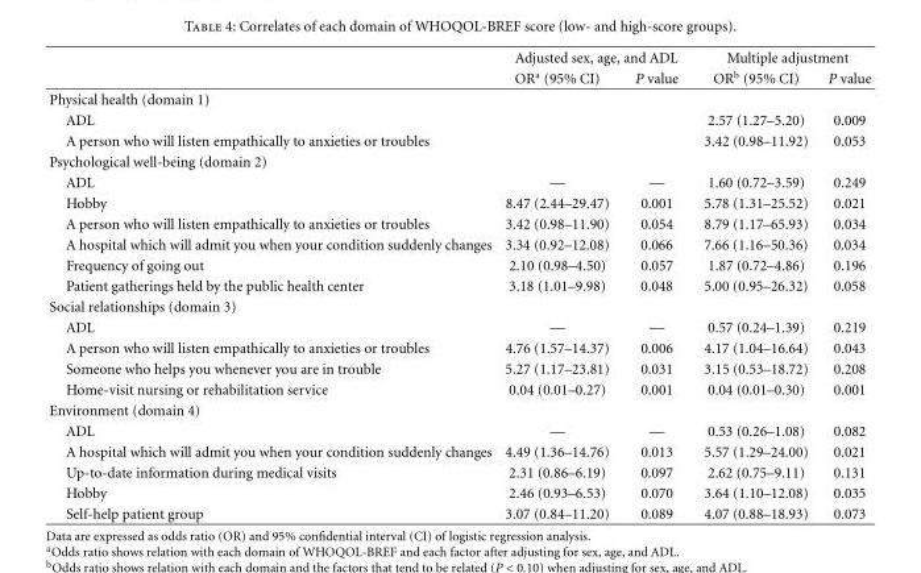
<table><thead><tr><td rowspan="2"></td><td colspan="2">Adjusted sex, age, and ADL</td><td colspan="2">Multiple adjustment</td></tr><tr><td>OR<sup>a</sup> (95% CI)</td><td>P value</td><td>OR<sup>b</sup> (95% CI)</td><td>P value</td></tr></thead><tbody><tr><td colspan="5">Physical health (domain 1)</td></tr><tr><td>ADL</td><td></td><td></td><td>2.57 (1.27–5.20)</td><td>0.009</td></tr><tr><td>A person who will listen empathically to anxieties or troubles</td><td></td><td></td><td>3.42 (0.98–11.92)</td><td>0.053</td></tr><tr><td colspan="5">Psychological well-being (domain 2)</td></tr><tr><td>ADL</td><td>—</td><td>—</td><td>1.60 (0.72–3.59)</td><td>0.249</td></tr><tr><td>Hobby</td><td>8.47 (2.44–29.47)</td><td>0.001</td><td>5.78 (1.31–25.52)</td><td>0.021</td></tr><tr><td>A person who will listen empathically to anxieties or troubles</td><td>3.42 (0.98–11.90)</td><td>0.054</td><td>8.79 (1.17–65.93)</td><td>0.034</td></tr><tr><td>A hospital which will admit you when your condition suddenly changes</td><td>3.34 (0.92–12.08)</td><td>0.066</td><td>7.66 (1.16–50.36)</td><td>0.034</td></tr><tr><td>Frequency of going out</td><td>2.10 (0.98–4.50)</td><td>0.057</td><td>1.87 (0.72–4.86)</td><td>0.196</td></tr><tr><td>Patient gatherings held by the public health center</td><td>3.18 (1.01–9.98)</td><td>0.048</td><td>5.00 (0.95–26.32)</td><td>0.058</td></tr><tr><td colspan="5">Social relationships (domain 3)</td></tr><tr><td>ADL</td><td>—</td><td>—</td><td>0.57 (0.24–1.39)</td><td>0.219</td></tr><tr><td>A person who will listen empathically to anxieties or troubles</td><td>4.76 (1.57–14.37)</td><td>0.006</td><td>4.17 (1.04–16.64)</td><td>0.043</td></tr><tr><td>Someone who helps you whenever you are in trouble</td><td>5.27 (1.17–23.81)</td><td>0.031</td><td>3.15 (0.53–18.72)</td><td>0.208</td></tr><tr><td>Home-visit nursing or rehabilitation service</td><td>0.04 (0.01–0.27)</td><td>0.001</td><td>0.04 (0.01–0.30)</td><td>0.001</td></tr><tr><td colspan="5">Environment (domain 4)</td></tr><tr><td>ADL</td><td>—</td><td>—</td><td>0.53 (0.26–1.08)</td><td>0.082</td></tr><tr><td>A hospital which will admit you when your condition suddenly changes</td><td>4.49 (1.36–14.76)</td><td>0.013</td><td>5.57 (1.29–24.00)</td><td>0.021</td></tr><tr><td>Up-to-date information during medical visits</td><td>2.31 (0.86–6.19)</td><td>0.097</td><td>2.62 (0.75–9.11)</td><td>0.131</td></tr><tr><td>Hobby</td><td>2.46 (0.93–6.53)</td><td>0.070</td><td>3.64 (1.10–12.08)</td><td>0.035</td></tr><tr><td>Self-help patient group</td><td>3.07 (0.84–11.20)</td><td>0.089</td><td>4.07 (0.88–18.93)</td><td>0.073</td></tr></tbody></table>